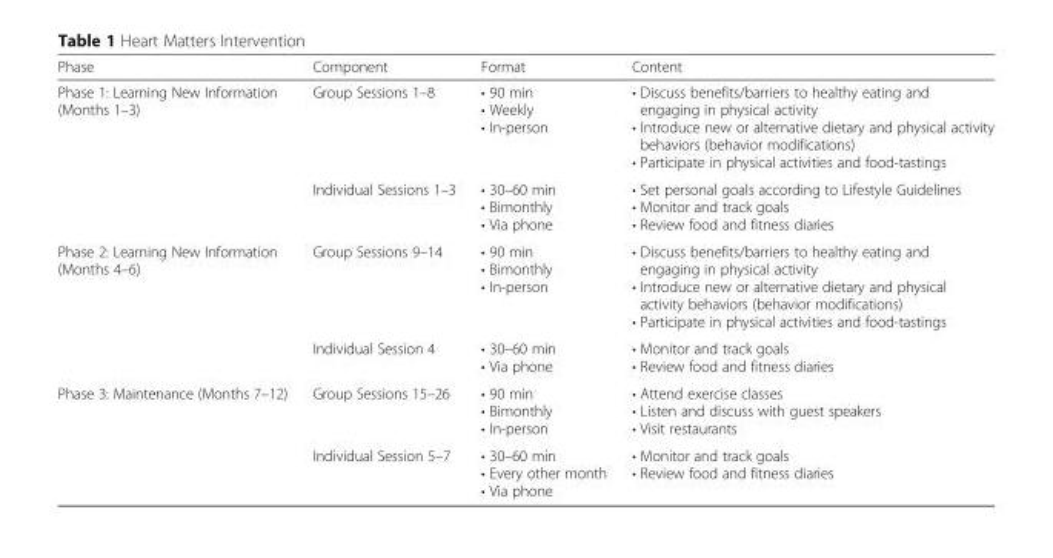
<table><thead><tr><td>Phase</td><td>Component</td><td>Format</td><td>Content</td></tr></thead><tbody><tr><td rowspan="2">Phase 1: Learning New Information (Months 1–3)</td><td>Group Sessions 1–8</td><td>• 90 min • Weekly • In-person</td><td>• Discuss benefits/barriers to healthy eating and engaging in physical activity • Introduce new or alternative dietary and physical activity behaviors (behavior modifications) • Participate in physical activities and food-tastings</td></tr><tr><td>Individual Sessions 1–3</td><td>• 30–60 min • Bimonthly • Via phone</td><td>• Set personal goals according to Lifestyle Guidelines • Monitor and track goals • Review food and fitness diaries</td></tr><tr><td rowspan="2">Phase 2: Learning New Information (Months 4–6)</td><td>Group Sessions 9–14</td><td>• 90 min • Bimonthly • In-person</td><td>• Discuss benefits/barriers to healthy eating and engaging in physical activity • Introduce new or alternative dietary and physical activity behaviors (behavior modifications) • Participate in physical activities and food-tastings</td></tr><tr><td>Individual Session 4</td><td>• 30–60 min • Via phone</td><td>• Monitor and track goals • Review food and fitness diaries</td></tr><tr><td rowspan="2">Phase 3: Maintenance (Months 7–12)</td><td>Group Sessions 15–26</td><td>• 90 min • Bimonthly • In-person</td><td>• Attend exercise classes • Listen and discuss with guest speakers • Visit restaurants</td></tr><tr><td>Individual Session 5–7</td><td>• 30–60 min • Every other month • Via phone</td><td>• Monitor and track goals • Review food and fitness diaries</td></tr></tbody></table>